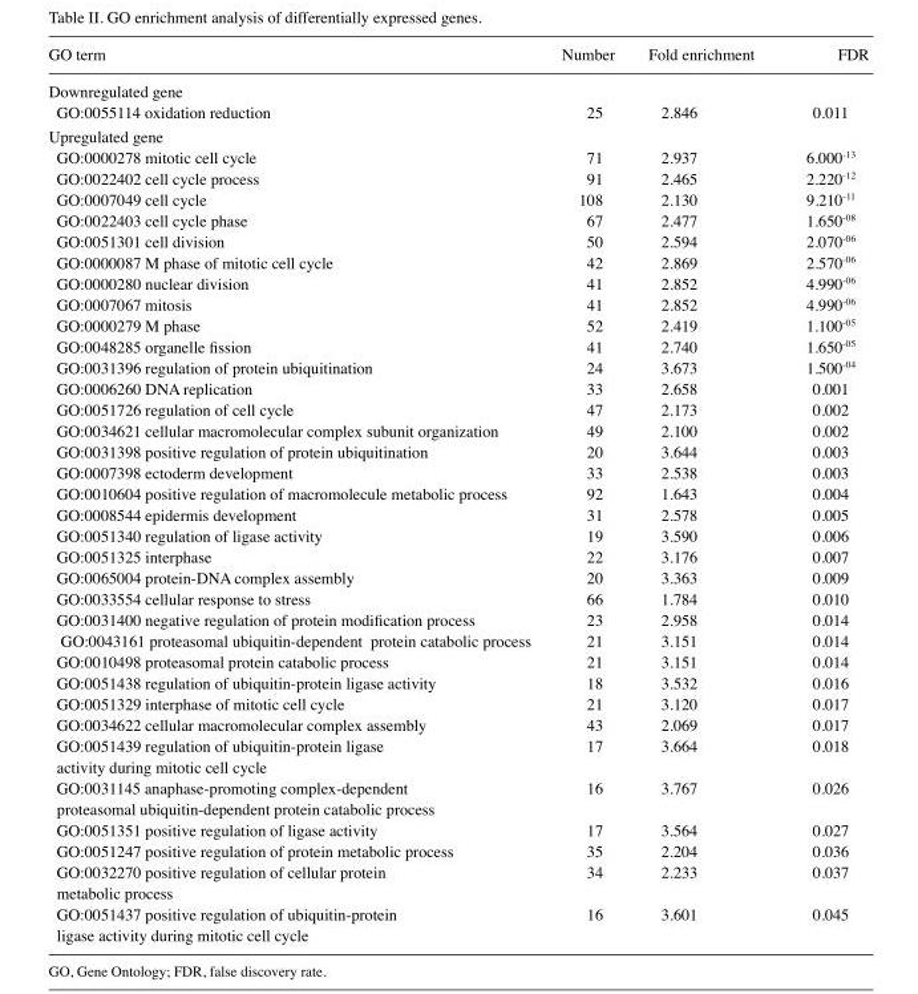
<table><thead><tr><td>GO term</td><td>Number</td><td>Fold enrichment</td><td>FDR</td></tr></thead><tbody><tr><td colspan="4">Downregulated gene</td></tr><tr><td>GO:0055114 oxidation reduction</td><td>25</td><td>2.846</td><td>0.011</td></tr><tr><td colspan="4">Upregulated gene</td></tr><tr><td>GO:0000278 mitotic cell cycle</td><td>71</td><td>2.937</td><td>6.000<sup>-13</sup></td></tr><tr><td>GO:0022402 cell cycle process</td><td>91</td><td>2.465</td><td>2.220<sup>-12</sup></td></tr><tr><td>GO:0007049 cell cycle</td><td>108</td><td>2.130</td><td>9.210<sup>-11</sup></td></tr><tr><td>GO:0022403 cell cycle phase</td><td>67</td><td>2.477</td><td>1.650<sup>-08</sup></td></tr><tr><td>GO:0051301 cell division</td><td>50</td><td>2.594</td><td>2.070<sup>-06</sup></td></tr><tr><td>GO:0000087 M phase of mitotic cell cycle</td><td>42</td><td>2.869</td><td>2.570<sup>-06</sup></td></tr><tr><td>GO:0000280 nuclear division</td><td>41</td><td>2.852</td><td>4.990<sup>-06</sup></td></tr><tr><td>GO:0007067 mitosis</td><td>41</td><td>2.852</td><td>4.990<sup>-06</sup></td></tr><tr><td>GO:0000279 M phase</td><td>52</td><td>2.419</td><td>1.100<sup>-05</sup></td></tr><tr><td>GO:0048285 organelle fission</td><td>41</td><td>2.740</td><td>1.650<sup>-05</sup></td></tr><tr><td>GO:0031396 regulation of protein ubiquitination</td><td>24</td><td>3.673</td><td>1.500<sup>-04</sup></td></tr><tr><td>GO:0006260 DNA replication</td><td>33</td><td>2.658</td><td>0.001</td></tr><tr><td>GO:0051726 regulation of cell cycle</td><td>47</td><td>2.173</td><td>0.002</td></tr><tr><td>GO:0034621 cellular macromolecular complex subunit organization</td><td>49</td><td>2.100</td><td>0.002</td></tr><tr><td>GO:0031398 positive regulation of protein ubiquitination</td><td>20</td><td>3.644</td><td>0.003</td></tr><tr><td>GO:0007398 ectoderm development</td><td>33</td><td>2.538</td><td>0.003</td></tr><tr><td>GO:0010604 positive regulation of macromolecule metabolic process</td><td>92</td><td>1.643</td><td>0.004</td></tr><tr><td>GO:0008544 epidermis development</td><td>31</td><td>2.578</td><td>0.005</td></tr><tr><td>GO:0051340 regulation of ligase activity</td><td>19</td><td>3.590</td><td>0.006</td></tr><tr><td>GO:0051325 interphase</td><td>22</td><td>3.176</td><td>0.007</td></tr><tr><td>GO:0065004 protein-DNA complex assembly</td><td>20</td><td>3.363</td><td>0.009</td></tr><tr><td>GO:0033554 cellular response to stress</td><td>66</td><td>1.784</td><td>0.010</td></tr><tr><td>GO:0031400 negative regulation of protein modification process</td><td>23</td><td>2.958</td><td>0.014</td></tr><tr><td>GO:0043161 proteasomal ubiquitin-dependent protein catabolic process</td><td>21</td><td>3.151</td><td>0.014</td></tr><tr><td>GO:0010498 proteasomal protein catabolic process</td><td>21</td><td>3.151</td><td>0.014</td></tr><tr><td>GO:0051438 regulation of ubiquitin-protein ligase activity</td><td>18</td><td>3.532</td><td>0.016</td></tr><tr><td>GO:0051329 interphase of mitotic cell cycle</td><td>21</td><td>3.120</td><td>0.017</td></tr><tr><td>GO:0034622 cellular macromolecular complex assembly</td><td>43</td><td>2.069</td><td>0.017</td></tr><tr><td>GO:0051439 regulation of ubiquitin-protein ligase activity during mitotic cell cycle</td><td>17</td><td>3.664</td><td>0.018</td></tr><tr><td>GO:0031145 anaphase-promoting complex-dependent proteasomal ubiquitin-dependent protein catabolic process</td><td>16</td><td>3.767</td><td>0.026</td></tr><tr><td>GO:0051351 positive regulation of ligase activity</td><td>17</td><td>3.564</td><td>0.027</td></tr><tr><td>GO:0051247 positive regulation of protein metabolic process</td><td>35</td><td>2.204</td><td>0.036</td></tr><tr><td>GO:0032270 positive regulation of cellular protein metabolic process</td><td>34</td><td>2.233</td><td>0.037</td></tr><tr><td>GO:0051437 positive regulation of ubiquitin-protein ligase activity during mitotic cell cycle</td><td>16</td><td>3.601</td><td>0.045</td></tr></tbody></table>